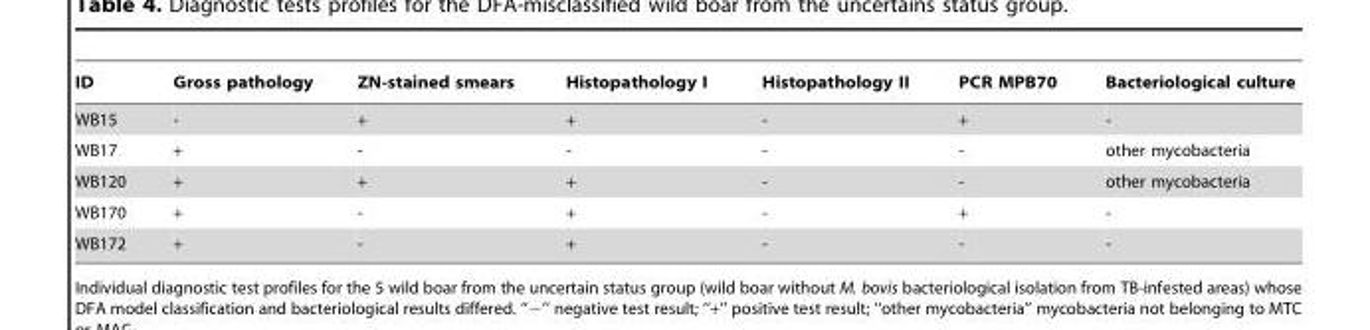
<table><thead><tr><td>ID</td><td>Gross pathology</td><td>ZN-stained smears</td><td>Histopathology I</td><td>Histopathology II</td><td>PCR MPB70</td><td>Bacteriological culture</td></tr></thead><tbody><tr><td>WB15</td><td>-</td><td>+</td><td>+</td><td>-</td><td>+</td><td>-</td></tr><tr><td>WB17</td><td>+</td><td>-</td><td>-</td><td>-</td><td>-</td><td>other mycobacteria</td></tr><tr><td>WB120</td><td>+</td><td>+</td><td>+</td><td>-</td><td>-</td><td>other mycobacteria</td></tr><tr><td>WB170</td><td>+</td><td>-</td><td>+</td><td>-</td><td>+</td><td>-</td></tr><tr><td>WB172</td><td>+</td><td>-</td><td>+</td><td>-</td><td>-</td><td>-</td></tr></tbody></table>